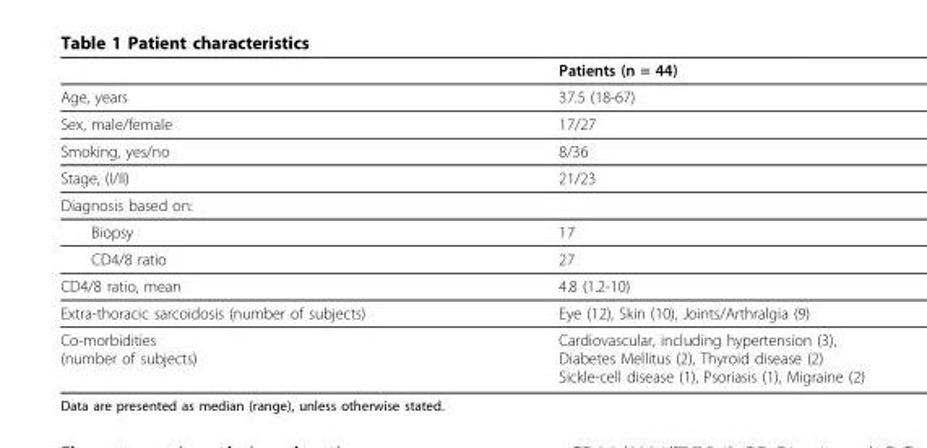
<table><thead><tr><td></td><td>Patients (n = 44)</td></tr></thead><tbody><tr><td>Age, years</td><td>37.5 (18-67)</td></tr><tr><td>Sex, male/female</td><td>17/27</td></tr><tr><td>Smoking, yes/no</td><td>8/36</td></tr><tr><td>Stage, (I/II)</td><td>21/23</td></tr><tr><td colspan="2">Diagnosis based on:</td></tr><tr><td>Biopsy</td><td>17</td></tr><tr><td>CD4/8 ratio</td><td>27</td></tr><tr><td>CD4/8 ratio, mean</td><td>4.8 (1.2-10)</td></tr><tr><td>Extra-thoracic sarcoidosis (number of subjects)</td><td>Eye (12), Skin (10), Joints/Arthralgia (9)</td></tr><tr><td>Co-morbidities (number of subjects)</td><td>Cardiovascular, including hypertension (3), Diabetes Mellitus (2), Thyroid disease (2) Sickle-cell disease (1), Psoriasis (1), Migraine (2)</td></tr></tbody></table>